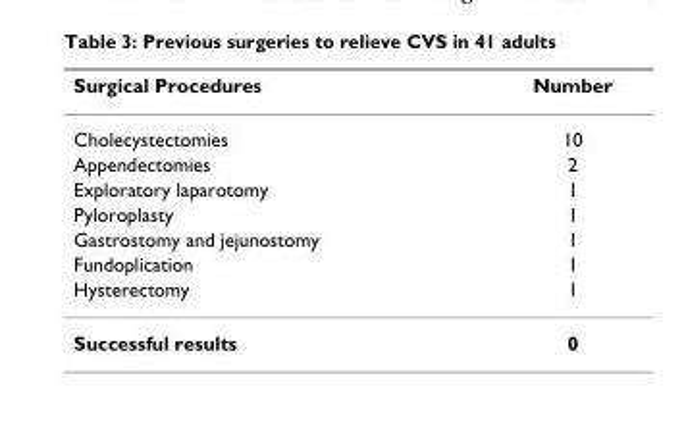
<table><thead><tr><td>Surgical Procedures</td><td>Number</td></tr></thead><tbody><tr><td>Cholecystectomies</td><td>10</td></tr><tr><td>Appendectomies</td><td>2</td></tr><tr><td>Exploratory laparotomy</td><td>1</td></tr><tr><td>Pyloroplasty</td><td>1</td></tr><tr><td>Gastrostomy and jejunostomy</td><td>1</td></tr><tr><td>Fundoplication</td><td>1</td></tr><tr><td>Hysterectomy</td><td>1</td></tr><tr><td>Successful results</td><td>0</td></tr></tbody></table>